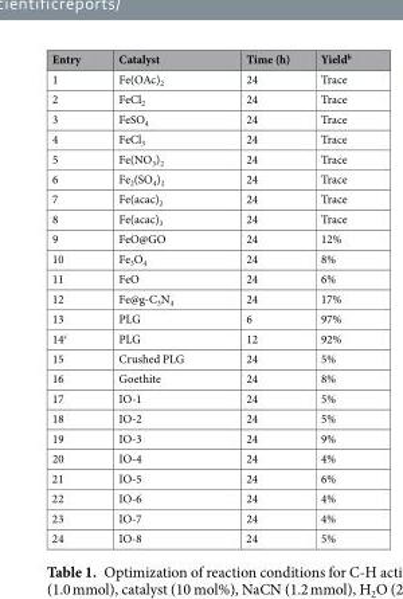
<table><thead><tr><td>Entry</td><td>Catalyst</td><td>Time (h)</td><td>Yield<sup>b</sup></td></tr></thead><tbody><tr><td>1</td><td>Fe(OAc)<sub>2</sub></td><td>24</td><td>Trace</td></tr><tr><td>2</td><td>FeCl<sub>2</sub></td><td>24</td><td>Trace</td></tr><tr><td>3</td><td>FeSO<sub>4</sub></td><td>24</td><td>Trace</td></tr><tr><td>4</td><td>FeCl<sub>3</sub></td><td>24</td><td>Trace</td></tr><tr><td>5</td><td>Fe(NO<sub>3</sub>)<sub>2</sub></td><td>24</td><td>Trace</td></tr><tr><td>6</td><td>Fe<sub>2</sub>(SO<sub>4</sub>)<sub>2</sub></td><td>24</td><td>Trace</td></tr><tr><td>7</td><td>Fe(acac)<sub>2</sub></td><td>24</td><td>Trace</td></tr><tr><td>8</td><td>Fe(acac)<sub>3</sub></td><td>24</td><td>Trace</td></tr><tr><td>9</td><td>FeO@GO</td><td>24</td><td>12%</td></tr><tr><td>10</td><td>Fe<sub>3</sub>O<sub>4</sub></td><td>24</td><td>8%</td></tr><tr><td>11</td><td>FeO</td><td>24</td><td>6%</td></tr><tr><td>12</td><td>Fe@g-C<sub>3</sub>N<sub>4</sub></td><td>24</td><td>17%</td></tr><tr><td>13</td><td>PLG</td><td>6</td><td>97%</td></tr><tr><td>14<sup>c</sup></td><td>PLG</td><td>12</td><td>92%</td></tr><tr><td>15</td><td>Crushed PLG</td><td>24</td><td>5%</td></tr><tr><td>16</td><td>Goethite</td><td>24</td><td>8%</td></tr><tr><td>17</td><td>IO-1</td><td>24</td><td>5%</td></tr><tr><td>18</td><td>IO-2</td><td>24</td><td>5%</td></tr><tr><td>19</td><td>IO-3</td><td>24</td><td>9%</td></tr><tr><td>20</td><td>IO-4</td><td>24</td><td>4%</td></tr><tr><td>21</td><td>IO-5</td><td>24</td><td>6%</td></tr><tr><td>22</td><td>IO-6</td><td>24</td><td>4%</td></tr><tr><td>23</td><td>IO-7</td><td>24</td><td>4%</td></tr><tr><td>24</td><td>IO-8</td><td>24</td><td>5%</td></tr></tbody></table>